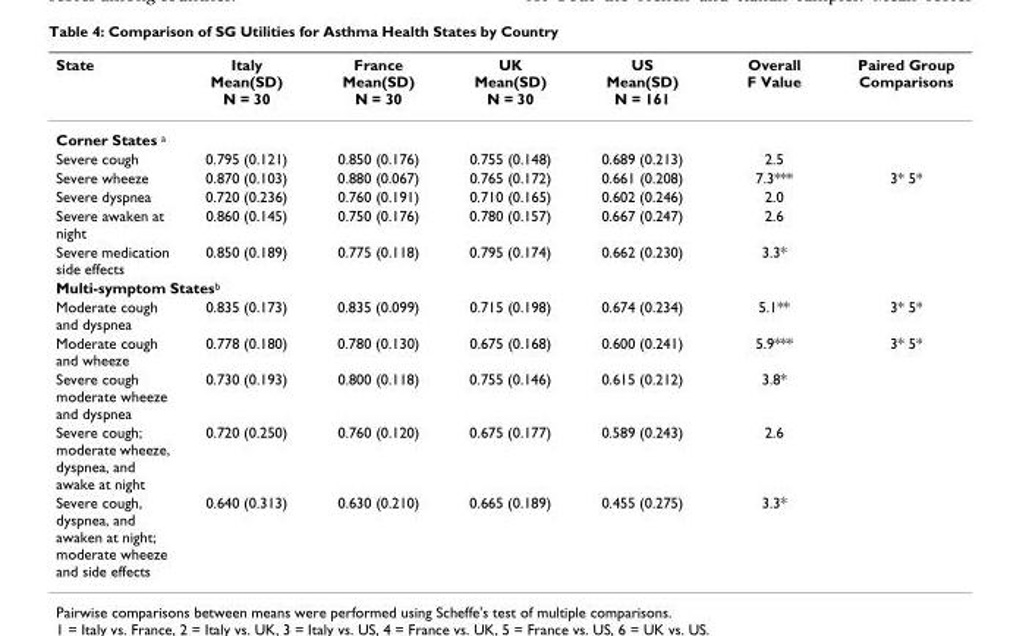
<table><thead><tr><td>State</td><td>Italy Mean(SD) N = 30</td><td>France Mean(SD) N = 30</td><td>UK Mean(SD) N = 30</td><td>US Mean(SD) N = 161</td><td>Overall F Value</td><td>Paired Group Comparisons</td></tr></thead><tbody><tr><td colspan="7">Corner States <sup>a</sup></td></tr><tr><td>Severe cough</td><td>0.795 (0.121)</td><td>0.850 (0.176)</td><td>0.755 (0.148)</td><td>0.689 (0.213)</td><td>2.5</td><td></td></tr><tr><td>Severe wheeze</td><td>0.870 (0.103)</td><td>0.880 (0.067)</td><td>0.765 (0.172)</td><td>0.661 (0.208)</td><td>7.3***</td><td>3* 5*</td></tr><tr><td>Severe dyspnea</td><td>0.720 (0.236)</td><td>0.760 (0.191)</td><td>0.710 (0.165)</td><td>0.602 (0.246)</td><td>2.0</td><td></td></tr><tr><td>Severe awaken at night</td><td>0.860 (0.145)</td><td>0.750 (0.176)</td><td>0.780 (0.157)</td><td>0.667 (0.247)</td><td>2.6</td><td></td></tr><tr><td>Severe medication side effects</td><td>0.850 (0.189)</td><td>0.775 (0.118)</td><td>0.795 (0.174)</td><td>0.662 (0.230)</td><td>3.3*</td><td></td></tr><tr><td colspan="7">Multi-symptom States<sup>b</sup></td></tr><tr><td>Moderate cough and dyspnea</td><td>0.835 (0.173)</td><td>0.835 (0.099)</td><td>0.715 (0.198)</td><td>0.674 (0.234)</td><td>5.1**</td><td>3* 5*</td></tr><tr><td>Moderate cough and wheeze</td><td>0.778 (0.180)</td><td>0.780 (0.130)</td><td>0.675 (0.168)</td><td>0.600 (0.241)</td><td>5.9***</td><td>3* 5*</td></tr><tr><td>Severe cough moderate wheeze and dyspnea</td><td>0.730 (0.193)</td><td>0.800 (0.118)</td><td>0.755 (0.146)</td><td>0.615 (0.212)</td><td>3.8*</td><td></td></tr><tr><td>Severe cough; moderate wheeze, dyspnea, and awake at night</td><td>0.720 (0.250)</td><td>0.760 (0.120)</td><td>0.675 (0.177)</td><td>0.589 (0.243)</td><td>2.6</td><td></td></tr><tr><td>Severe cough, dyspnea, and awaken at night; moderate wheeze and side effects</td><td>0.640 (0.313)</td><td>0.630 (0.210)</td><td>0.665 (0.189)</td><td>0.455 (0.275)</td><td>3.3*</td><td></td></tr></tbody></table>